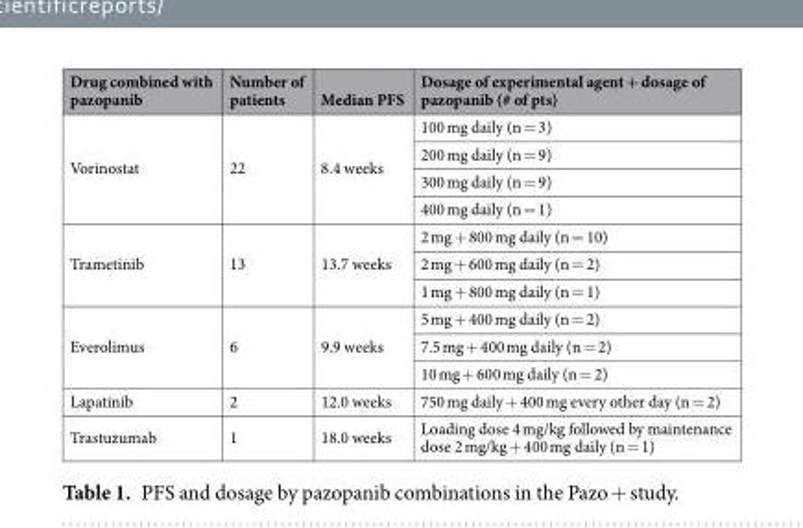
<table><thead><tr><td>Drug combined with pazopanib</td><td>Number of patients</td><td>Median PFS</td><td>Dosage of experimental agent + dosage of pazopanib (# of pts)</td></tr></thead><tbody><tr><td rowspan="4">Vorinostat</td><td rowspan="4">22</td><td rowspan="4">8.4 weeks</td><td>100 mg daily (n = 3)</td></tr><tr><td>200 mg daily (n = 9)</td></tr><tr><td>300 mg daily (n = 9)</td></tr><tr><td>400 mg daily (n = 1)</td></tr><tr><td rowspan="3">Trametinib</td><td rowspan="3">13</td><td rowspan="3">13.7 weeks</td><td>2 mg + 800 mg daily (n = 10)</td></tr><tr><td>2 mg + 600 mg daily (n = 2)</td></tr><tr><td>1 mg + 800 mg daily (n = 1)</td></tr><tr><td rowspan="3">Everolimus</td><td rowspan="3">6</td><td rowspan="3">9.9 weeks</td><td>5 mg + 400 mg daily (n = 2)</td></tr><tr><td>7.5 mg + 400 mg daily (n = 2)</td></tr><tr><td>10 mg + 600 mg daily (n = 2)</td></tr><tr><td>Lapatinib</td><td>2</td><td>12.0 weeks</td><td>750 mg daily + 400 mg every other day (n = 2)</td></tr><tr><td>Trastuzumab</td><td>1</td><td>18.0 weeks</td><td>Loading dose 4 mg/kg followed by maintenance dose 2 mg/kg + 400 mg daily (n = 1)</td></tr></tbody></table>